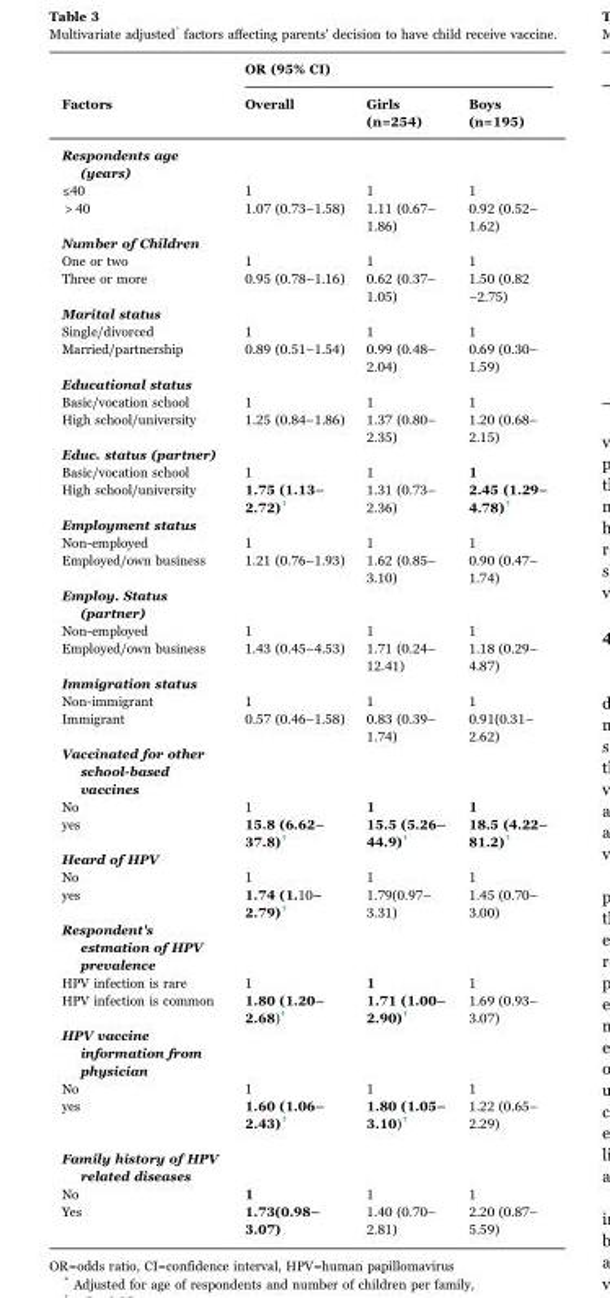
<table><thead><tr><td rowspan="2">Factors</td><td colspan="3">OR (95% CI)</td></tr><tr><td>Overall</td><td>Girls (n=254)</td><td>Boys (n=195)</td></tr></thead><tbody><tr><td colspan="4">Respondents age (years)</td></tr><tr><td>≤40</td><td>1</td><td>1</td><td>1</td></tr><tr><td>&gt; 40</td><td>1.07 (0.73–1.58)</td><td>1.11 (0.67– 1.86)</td><td>0.92 (0.52– 1.62)</td></tr><tr><td colspan="4">Number of Children</td></tr><tr><td>One or two</td><td>1</td><td>1</td><td>1</td></tr><tr><td>Three or more</td><td>0.95 (0.78–1.16)</td><td>0.62 (0.37– 1.05)</td><td>1.50 (0.82 −2.75)</td></tr><tr><td colspan="4">Marital status</td></tr><tr><td>Single/divorced</td><td>1</td><td>1</td><td>1</td></tr><tr><td>Married/partnership</td><td>0.89 (0.51–1.54)</td><td>0.99 (0.48– 2.04)</td><td>0.69 (0.30– 1.59)</td></tr><tr><td colspan="4">Educational status</td></tr><tr><td>Basic/vocation school</td><td>1</td><td>1</td><td>1</td></tr><tr><td>High school/university</td><td>1.25 (0.84–1.86)</td><td>1.37 (0.80– 2.35)</td><td>1.20 (0.68– 2.15)</td></tr><tr><td colspan="4">Educ. status (partner)</td></tr><tr><td>Basic/vocation school</td><td>1</td><td>1</td><td>1</td></tr><tr><td>High school/university</td><td>1.75 (1.13– 2.72)†</td><td>1.31 (0.73– 2.36)</td><td>2.45 (1.29– 4.78)†</td></tr><tr><td colspan="4">Employment status</td></tr><tr><td>Non-employed</td><td>1</td><td>1</td><td>1</td></tr><tr><td>Employed/own business</td><td>1.21 (0.76–1.93)</td><td>1.62 (0.85– 3.10)</td><td>0.90 (0.47– 1.74)</td></tr><tr><td colspan="4">Employ. Status (partner)</td></tr><tr><td>Non-employed</td><td>1</td><td>1</td><td>1</td></tr><tr><td>Employed/own business</td><td>1.43 (0.45–4.53)</td><td>1.71 (0.24– 12.41)</td><td>1.18 (0.29– 4.87)</td></tr><tr><td colspan="4">Immigration status</td></tr><tr><td>Non-immigrant</td><td>1</td><td>1</td><td>1</td></tr><tr><td>Immigrant</td><td>0.57 (0.46–1.58)</td><td>0.83 (0.39– 1.74)</td><td>0.91(0.31– 2.62)</td></tr><tr><td colspan="4">Vaccinated for other school-based vaccines</td></tr><tr><td>No</td><td>1</td><td>1</td><td>1</td></tr><tr><td>yes</td><td>15.8 (6.62– 37.8)†</td><td>15.5 (5.26– 44.9)†</td><td>18.5 (4.22– 81.2)†</td></tr><tr><td colspan="4">Heard of HPV</td></tr><tr><td>No</td><td>1</td><td>1</td><td>1</td></tr><tr><td>yes</td><td>1.74 (1.10– 2.79)†</td><td>1.79(0.97– 3.31)</td><td>1.45 (0.70– 3.00)</td></tr><tr><td colspan="4">Respondent&#x27;s estmation of HPV prevalence</td></tr><tr><td>HPV infection is rare</td><td>1</td><td>1</td><td>1</td></tr><tr><td>HPV infection is common</td><td>1.80 (1.20– 2.68)†</td><td>1.71 (1.00– 2.90)†</td><td>1.69 (0.93– 3.07)</td></tr><tr><td colspan="4">HPV vaccine information from physician</td></tr><tr><td>No</td><td>1</td><td>1</td><td>1</td></tr><tr><td>yes</td><td>1.60 (1.06– 2.43)†</td><td>1.80 (1.05– 3.10)†</td><td>1.22 (0.65– 2.29)</td></tr><tr><td colspan="4">Family history of HPV related diseases</td></tr><tr><td>No</td><td>1</td><td>1</td><td>1</td></tr><tr><td>Yes</td><td>1.73(0.98– 3.07)</td><td>1.40 (0.70– 2.81)</td><td>2.20 (0.87– 5.59)</td></tr></tbody></table>